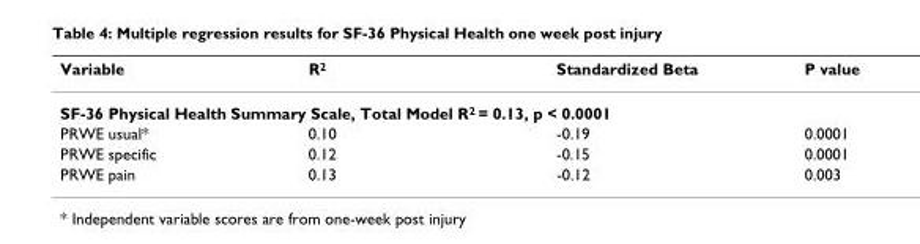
<table><thead><tr><td>Variable</td><td>R<sup>2</sup></td><td>Standardized Beta</td><td>P value</td></tr></thead><tbody><tr><td colspan="4">SF-36 Physical Health Summary Scale, Total Model R<sup>2</sup> = 0.13, p &lt; 0.0001</td></tr><tr><td>PRWE usual*</td><td>0.10</td><td>-0.19</td><td>0.0001</td></tr><tr><td>PRWE specific</td><td>0.12</td><td>-0.15</td><td>0.0001</td></tr><tr><td>PRWE pain</td><td>0.13</td><td>-0.12</td><td>0.003</td></tr></tbody></table>